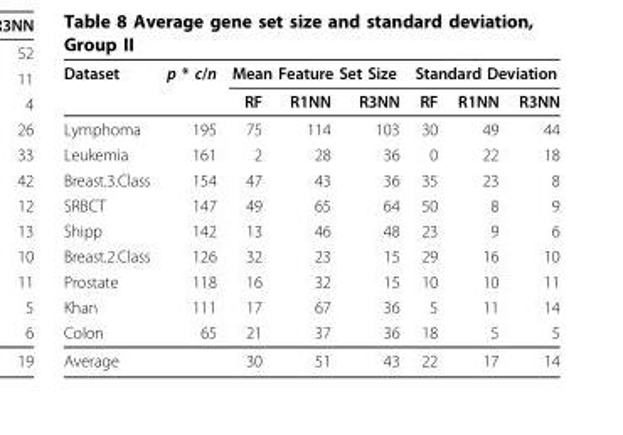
<table><thead><tr><td rowspan="2">Dataset</td><td rowspan="2">p * c/n</td><td colspan="3">Mean Feature Set Size</td><td colspan="3">Standard Deviation</td></tr><tr><td>RF</td><td>R1NN</td><td>R3NN</td><td>RF</td><td>R1NN</td><td>R3NN</td></tr></thead><tbody><tr><td>Lymphoma</td><td>195</td><td>75</td><td>114</td><td>103</td><td>30</td><td>49</td><td>44</td></tr><tr><td>Leukemia</td><td>161</td><td>2</td><td>28</td><td>36</td><td>0</td><td>22</td><td>18</td></tr><tr><td>Breast.3.Class</td><td>154</td><td>47</td><td>43</td><td>36</td><td>35</td><td>23</td><td>8</td></tr><tr><td>SRBCT</td><td>147</td><td>49</td><td>65</td><td>64</td><td>50</td><td>8</td><td>9</td></tr><tr><td>Shipp</td><td>142</td><td>13</td><td>46</td><td>48</td><td>23</td><td>9</td><td>6</td></tr><tr><td>Breast.2.Class</td><td>126</td><td>32</td><td>23</td><td>15</td><td>29</td><td>16</td><td>10</td></tr><tr><td>Prostate</td><td>118</td><td>16</td><td>32</td><td>15</td><td>10</td><td>10</td><td>11</td></tr><tr><td>Khan</td><td>111</td><td>17</td><td>67</td><td>36</td><td>5</td><td>11</td><td>14</td></tr><tr><td>Colon</td><td>65</td><td>21</td><td>37</td><td>36</td><td>18</td><td>5</td><td>5</td></tr><tr><td>Average</td><td></td><td>30</td><td>51</td><td>43</td><td>22</td><td>17</td><td>14</td></tr></tbody></table>